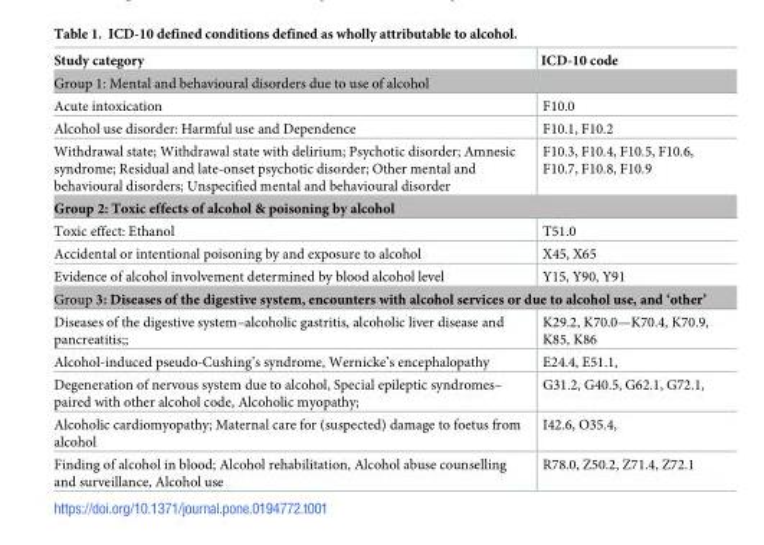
<table><thead><tr><td>Study category</td><td>ICD-10 code</td></tr></thead><tbody><tr><td colspan="2">Group 1: Mental and behavioural disorders due to use of alcohol</td></tr><tr><td>Acute intoxication</td><td>F10.0</td></tr><tr><td>Alcohol use disorder: Harmful use and Dependence</td><td>F10.1, F10.2</td></tr><tr><td>Withdrawal state; Withdrawal state with delirium; Psychotic disorder; Amnesic syndrome; Residual and late-onset psychotic disorder; Other mental and behavioural disorders; Unspecified mental and behavioural disorder</td><td>F10.3, F10.4, F10.5, F10.6, F10.7, F10.8, F10.9</td></tr><tr><td colspan="2">Group 2: Toxic effects of alcohol &amp; poisoning by alcohol</td></tr><tr><td>Toxic effect: Ethanol</td><td>T51.0</td></tr><tr><td>Accidental or intentional poisoning by and exposure to alcohol</td><td>X45, X65</td></tr><tr><td>Evidence of alcohol involvement determined by blood alcohol level</td><td>Y15, Y90, Y91</td></tr><tr><td colspan="2">Group 3: Diseases of the digestive system, encounters with alcohol services or due to alcohol use, and ‘other’</td></tr><tr><td>Diseases of the digestive system–alcoholic gastritis, alcoholic liver disease and pancreatitis;;</td><td>K29.2, K70.0—K70.4, K70.9, K85, K86</td></tr><tr><td>Alcohol-induced pseudo-Cushing’s syndrome, Wernicke’s encephalopathy</td><td>E24.4, E51.1,</td></tr><tr><td>Degeneration of nervous system due to alcohol, Special epileptic syndromes– paired with other alcohol code, Alcoholic myopathy;</td><td>G31.2, G40.5, G62.1, G72.1,</td></tr><tr><td>Alcoholic cardiomyopathy; Maternal care for (suspected) damage to foetus from alcohol</td><td>I42.6, O35.4,</td></tr><tr><td>Finding of alcohol in blood; Alcohol rehabilitation, Alcohol abuse counselling and surveillance, Alcohol use</td><td>R78.0, Z50.2, Z71.4, Z72.1</td></tr></tbody></table>